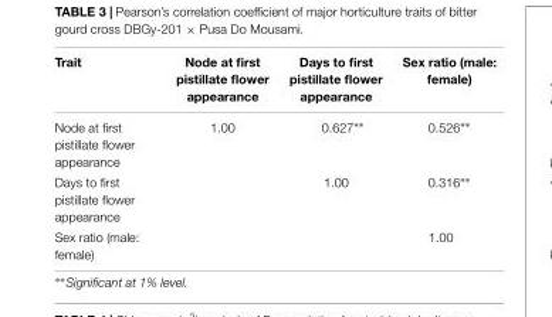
<table><thead><tr><td>Trait</td><td>Node at first pistillate flower appearance</td><td>Days to first pistillate flower appearance</td><td>Sex ratio (male: female)</td></tr></thead><tbody><tr><td>Node at first pistillate flower appearance</td><td>1.00</td><td>0.627∗∗</td><td>0.526∗∗</td></tr><tr><td>Days to first pistillate flower appearance</td><td></td><td>1.00</td><td>0.316∗∗</td></tr><tr><td>Sex ratio (male: female)</td><td></td><td></td><td>1.00</td></tr></tbody></table>